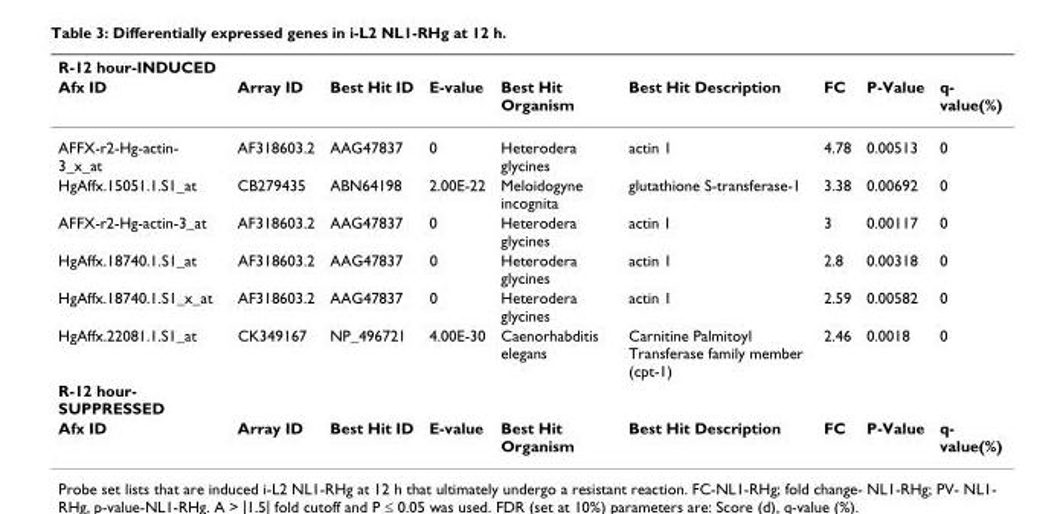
<table><thead><tr><td colspan="9">R-12 hour-INDUCED</td></tr><tr><td>Afx ID</td><td>Array ID</td><td>Best Hit ID</td><td>E-value</td><td>Best Hit Organism</td><td>Best Hit Description</td><td>FC</td><td>P-Value</td><td>q- value(%)</td></tr></thead><tbody><tr><td>AFFX-r2-Hg-actin- 3_x_at</td><td>AF318603.2</td><td>AAG47837</td><td>0</td><td>Heterodera glycines</td><td>actin 1</td><td>4.78</td><td>0.00513</td><td>0</td></tr><tr><td>HgAffx.15051.1.S1_at</td><td>CB279435</td><td>ABN64198</td><td>2.00E-22</td><td>Meloidogyne incognita</td><td>glutathione S-transferase-1</td><td>3.38</td><td>0.00692</td><td>0</td></tr><tr><td>AFFX-r2-Hg-actin-3_at</td><td>AF318603.2</td><td>AAG47837</td><td>0</td><td>Heterodera glycines</td><td>actin 1</td><td>3</td><td>0.00117</td><td>0</td></tr><tr><td>HgAffx.18740.1.S1_at</td><td>AF318603.2</td><td>AAG47837</td><td>0</td><td>Heterodera glycines</td><td>actin 1</td><td>2.8</td><td>0.00318</td><td>0</td></tr><tr><td>HgAffx.18740.1.S1_x_at</td><td>AF318603.2</td><td>AAG47837</td><td>0</td><td>Heterodera glycines</td><td>actin 1</td><td>2.59</td><td>0.00582</td><td>0</td></tr><tr><td>HgAffx.22081.1.S1_at</td><td>CK349167</td><td>NP_496721</td><td>4.00E-30</td><td>Caenorhabditis elegans</td><td>Carnitine Palmitoyl Transferase family member (cpt-1)</td><td>2.46</td><td>0.0018</td><td>0</td></tr><tr><td colspan="9">R-12 hour- SUPPRESSED</td></tr><tr><td>Afx ID</td><td>Array ID</td><td>Best Hit ID</td><td>E-value</td><td>Best Hit Organism</td><td>Best Hit Description</td><td>FC</td><td>P-Value</td><td>q- value(%)</td></tr></tbody></table>